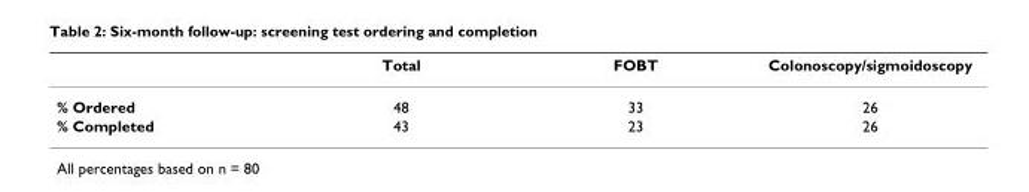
<table><thead><tr><td></td><td>Total</td><td>FOBT</td><td>Colonoscopy/sigmoidoscopy</td></tr></thead><tbody><tr><td>% Ordered</td><td>48</td><td>33</td><td>26</td></tr><tr><td>% Completed</td><td>43</td><td>23</td><td>26</td></tr></tbody></table>